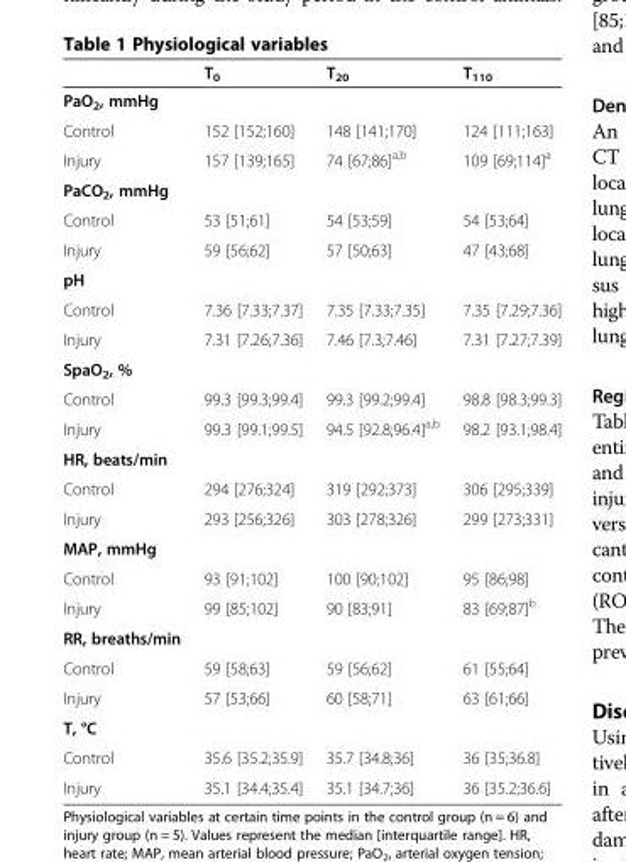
<table><thead><tr><td></td><td>T<sub>0</sub></td><td>T<sub>20</sub></td><td>T<sub>110</sub></td></tr></thead><tbody><tr><td colspan="4">PaO<sub>2</sub>, mmHg</td></tr><tr><td>Control</td><td>152 [152;160]</td><td>148 [141;170]</td><td>124 [111;163]</td></tr><tr><td>Injury</td><td>157 [139;165]</td><td>74 [67;86]<sup>a,b</sup></td><td>109 [69;114]<sup>a</sup></td></tr><tr><td colspan="4">PaCO<sub>2</sub>, mmHg</td></tr><tr><td>Control</td><td>53 [51;61]</td><td>54 [53;59]</td><td>54 [53;64]</td></tr><tr><td>Injury</td><td>59 [56;62]</td><td>57 [50;63]</td><td>47 [43;68]</td></tr><tr><td colspan="4">pH</td></tr><tr><td>Control</td><td>7.36 [7.33;7.37]</td><td>7.35 [7.33;7.35]</td><td>7.35 [7.29;7.36]</td></tr><tr><td>Injury</td><td>7.31 [7.26;7.36]</td><td>7.46 [7.3;7.46]</td><td>7.31 [7.27;7.39]</td></tr><tr><td colspan="4">SpaO<sub>2</sub>, %</td></tr><tr><td>Control</td><td>99.3 [99.3;99.4]</td><td>99.3 [99.2;99.4]</td><td>98.8 [98.3;99.3]</td></tr><tr><td>Injury</td><td>99.3 [99.1;99.5]</td><td>94.5 [92.8;96.4]<sup>a,b</sup></td><td>98.2 [93.1;98.4]</td></tr><tr><td colspan="4">HR, beats/min</td></tr><tr><td>Control</td><td>294 [276;324]</td><td>319 [292;373]</td><td>306 [295;339]</td></tr><tr><td>Injury</td><td>293 [256;326]</td><td>303 [278;326]</td><td>299 [273;331]</td></tr><tr><td colspan="4">MAP, mmHg</td></tr><tr><td>Control</td><td>93 [91;102]</td><td>100 [90;102]</td><td>95 [86;98]</td></tr><tr><td>Injury</td><td>99 [85;102]</td><td>90 [83;91]</td><td>83 [69;87]<sup>b</sup></td></tr><tr><td colspan="4">RR, breaths/min</td></tr><tr><td>Control</td><td>59 [58;63]</td><td>59 [56;62]</td><td>61 [55;64]</td></tr><tr><td>Injury</td><td>57 [53;66]</td><td>60 [58;71]</td><td>63 [61;66]</td></tr><tr><td colspan="4">T, °C</td></tr><tr><td>Control</td><td>35.6 [35.2;35.9]</td><td>35.7 [34.8;36]</td><td>36 [35;36.8]</td></tr><tr><td>Injury</td><td>35.1 [34.4;35.4]</td><td>35.1 [34.7;36]</td><td>36 [35.2;36.6]</td></tr></tbody></table>